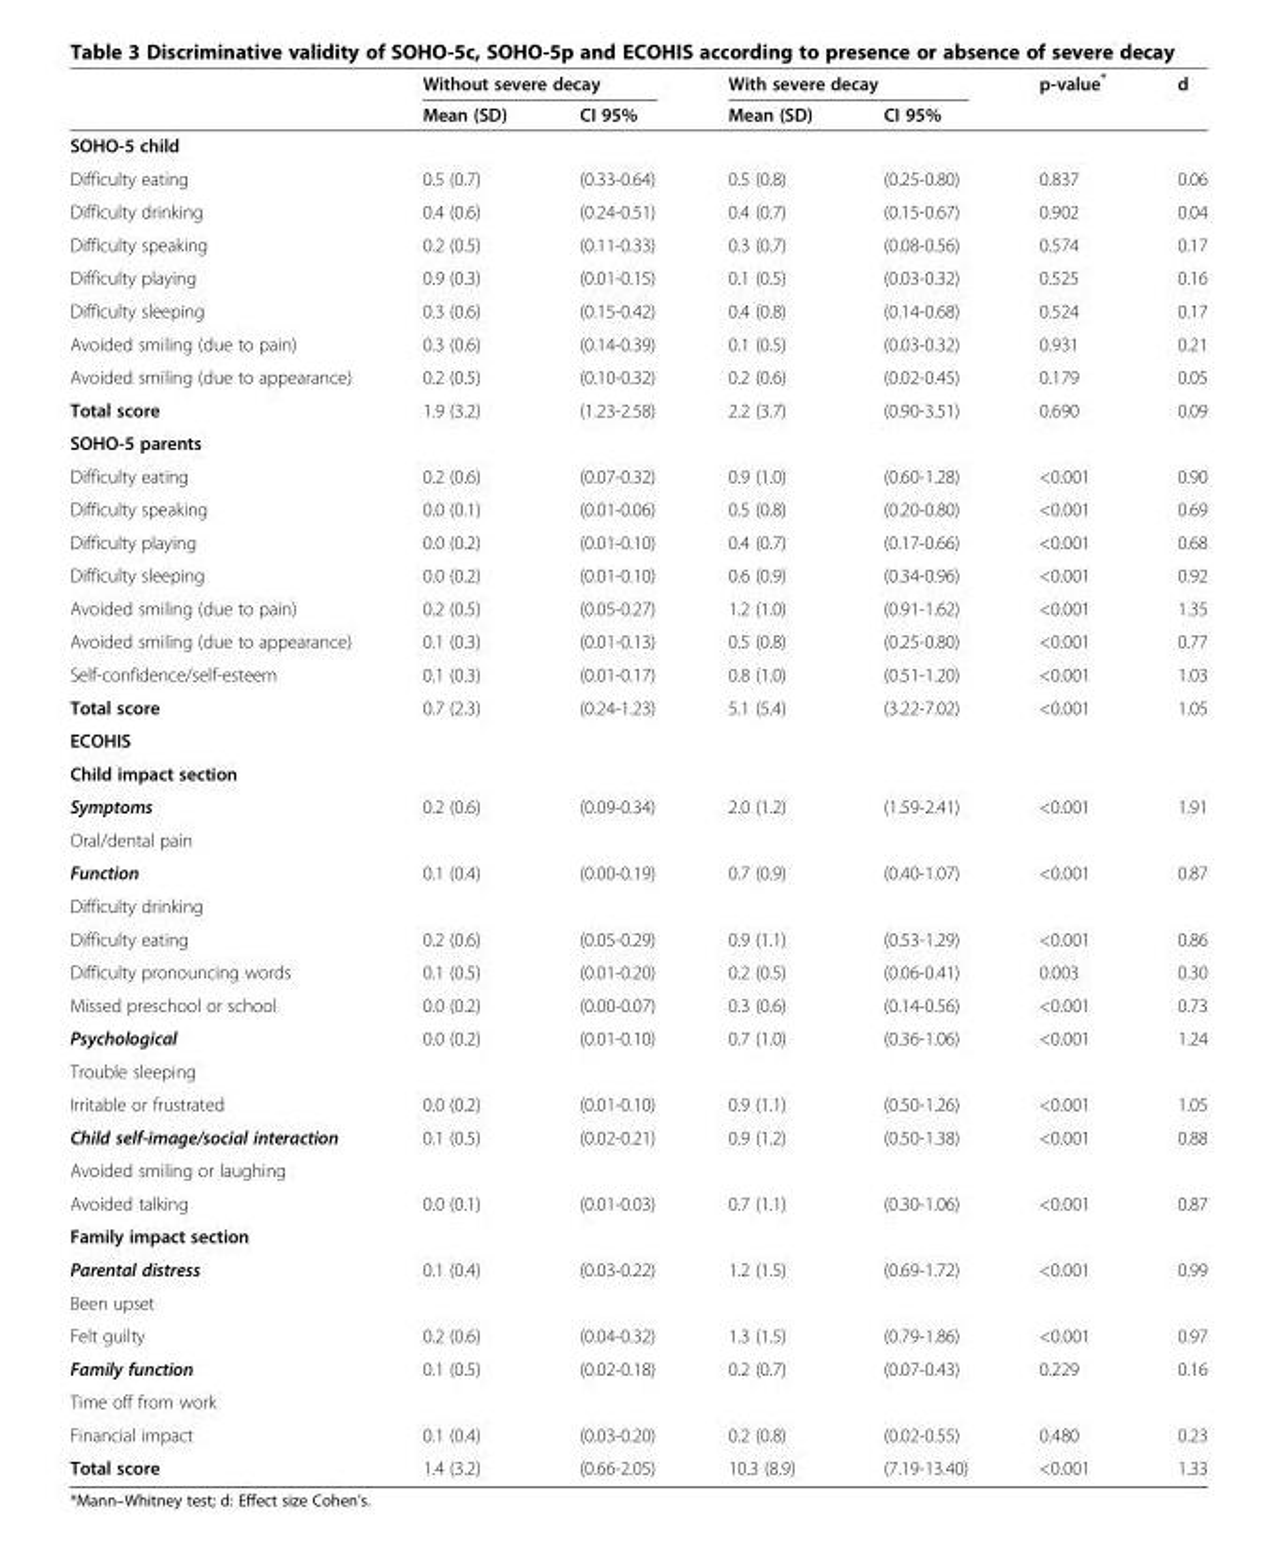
<table><thead><tr><td rowspan="2"></td><td colspan="2">Without severe decay</td><td colspan="2">With severe decay</td><td rowspan="2">p-value*</td><td rowspan="2">d</td></tr><tr><td>Mean (SD)</td><td>CI 95%</td><td>Mean (SD)</td><td>CI 95%</td></tr></thead><tbody><tr><td colspan="7">SOHO-5 child</td></tr><tr><td>Difficulty eating</td><td>0.5 (0.7)</td><td>(0.33-0.64)</td><td>0.5 (0.8)</td><td>(0.25-0.80)</td><td>0.837</td><td>0.06</td></tr><tr><td>Difficulty drinking</td><td>0.4 (0.6)</td><td>(0.24-0.51)</td><td>0.4 (0.7)</td><td>(0.15-0.67)</td><td>0.902</td><td>0.04</td></tr><tr><td>Difficulty speaking</td><td>0.2 (0.5)</td><td>(0.11-0.33)</td><td>0.3 (0.7)</td><td>(0.08-0.56)</td><td>0.574</td><td>0.17</td></tr><tr><td>Difficulty playing</td><td>0.9 (0.3)</td><td>(0.01-0.15)</td><td>0.1 (0.5)</td><td>(0.03-0.32)</td><td>0.525</td><td>0.16</td></tr><tr><td>Difficulty sleeping</td><td>0.3 (0.6)</td><td>(0.15-0.42)</td><td>0.4 (0.8)</td><td>(0.14-0.68)</td><td>0.524</td><td>0.17</td></tr><tr><td>Avoided smiling (due to pain)</td><td>0.3 (0.6)</td><td>(0.14-0.39)</td><td>0.1 (0.5)</td><td>(0.03-0.32)</td><td>0.931</td><td>0.21</td></tr><tr><td>Avoided smiling (due to appearance)</td><td>0.2 (0.5)</td><td>(0.10-0.32)</td><td>0.2 (0.6)</td><td>(0.02-0.45)</td><td>0.179</td><td>0.05</td></tr><tr><td>Total score</td><td>1.9 (3.2)</td><td>(1.23-2.58)</td><td>2.2 (3.7)</td><td>(0.90-3.51)</td><td>0.690</td><td>0.09</td></tr><tr><td colspan="7">SOHO-5 parents</td></tr><tr><td>Difficulty eating</td><td>0.2 (0.6)</td><td>(0.07-0.32)</td><td>0.9 (1.0)</td><td>(0.60-1.28)</td><td>&lt;0.001</td><td>0.90</td></tr><tr><td>Difficulty speaking</td><td>0.0 (0.1)</td><td>(0.01-0.06)</td><td>0.5 (0.8)</td><td>(0.20-0.80)</td><td>&lt;0.001</td><td>0.69</td></tr><tr><td>Difficulty playing</td><td>0.0 (0.2)</td><td>(0.01-0.10)</td><td>0.4 (0.7)</td><td>(0.17-0.66)</td><td>&lt;0.001</td><td>0.68</td></tr><tr><td>Difficulty sleeping</td><td>0.0 (0.2)</td><td>(0.01-0.10)</td><td>0.6 (0.9)</td><td>(0.34-0.96)</td><td>&lt;0.001</td><td>0.92</td></tr><tr><td>Avoided smiling (due to pain)</td><td>0.2 (0.5)</td><td>(0.05-0.27)</td><td>1.2 (1.0)</td><td>(0.91-1.62)</td><td>&lt;0.001</td><td>1.35</td></tr><tr><td>Avoided smiling (due to appearance)</td><td>0.1 (0.3)</td><td>(0.01-0.13)</td><td>0.5 (0.8)</td><td>(0.25-0.80)</td><td>&lt;0.001</td><td>0.77</td></tr><tr><td>Self-confidence/self-esteem</td><td>0.1 (0.3)</td><td>(0.01-0.17)</td><td>0.8 (1.0)</td><td>(0.51-1.20)</td><td>&lt;0.001</td><td>1.03</td></tr><tr><td>Total score</td><td>0.7 (2.3)</td><td>(0.24-1.23)</td><td>5.1 (5.4)</td><td>(3.22-7.02)</td><td>&lt;0.001</td><td>1.05</td></tr><tr><td colspan="7">ECOHIS</td></tr><tr><td colspan="7">Child impact section</td></tr><tr><td>Symptoms</td><td rowspan="2">0.2 (0.6)</td><td rowspan="2">(0.09-0.34)</td><td rowspan="2">2.0 (1.2)</td><td rowspan="2">(1.59-2.41)</td><td rowspan="2">&lt;0.001</td><td rowspan="2">1.91</td></tr><tr><td>Oral/dental pain</td></tr><tr><td>Function</td><td rowspan="2">0.1 (0.4)</td><td rowspan="2">(0.00-0.19)</td><td rowspan="2">0.7 (0.9)</td><td rowspan="2">(0.40-1.07)</td><td rowspan="2">&lt;0.001</td><td rowspan="2">0.87</td></tr><tr><td>Difficulty drinking</td></tr><tr><td>Difficulty eating</td><td>0.2 (0.6)</td><td>(0.05-0.29)</td><td>0.9 (1.1)</td><td>(0.53-1.29)</td><td>&lt;0.001</td><td>0.86</td></tr><tr><td>Difficulty pronouncing words</td><td>0.1 (0.5)</td><td>(0.01-0.20)</td><td>0.2 (0.5)</td><td>(0.06-0.41)</td><td>0.003</td><td>0.30</td></tr><tr><td>Missed preschool or school</td><td>0.0 (0.2)</td><td>(0.00-0.07)</td><td>0.3 (0.6)</td><td>(0.14-0.56)</td><td>&lt;0.001</td><td>0.73</td></tr><tr><td>Psychological</td><td rowspan="2">0.0 (0.2)</td><td rowspan="2">(0.01-0.10)</td><td rowspan="2">0.7 (1.0)</td><td rowspan="2">(0.36-1.06)</td><td rowspan="2">&lt;0.001</td><td rowspan="2">1.24</td></tr><tr><td>Trouble sleeping</td></tr><tr><td>Irritable or frustrated</td><td>0.0 (0.2)</td><td>(0.01-0.10)</td><td>0.9 (1.1)</td><td>(0.50-1.26)</td><td>&lt;0.001</td><td>1.05</td></tr><tr><td>Child self-image/social interaction</td><td rowspan="2">0.1 (0.5)</td><td rowspan="2">(0.02-0.21)</td><td rowspan="2">0.9 (1.2)</td><td rowspan="2">(0.50-1.38)</td><td rowspan="2">&lt;0.001</td><td rowspan="2">0.88</td></tr><tr><td>Avoided smiling or laughing</td></tr><tr><td>Avoided talking</td><td>0.0 (0.1)</td><td>(0.01-0.03)</td><td>0.7 (1.1)</td><td>(0.30-1.06)</td><td>&lt;0.001</td><td>0.87</td></tr><tr><td colspan="7">Family impact section</td></tr><tr><td>Parental distress</td><td rowspan="2">0.1 (0.4)</td><td rowspan="2">(0.03-0.22)</td><td rowspan="2">1.2 (1.5)</td><td rowspan="2">(0.69-1.72)</td><td rowspan="2">&lt;0.001</td><td rowspan="2">0.99</td></tr><tr><td>Been upset</td></tr><tr><td>Felt guilty</td><td>0.2 (0.6)</td><td>(0.04-0.32)</td><td>1.3 (1.5)</td><td>(0.79-1.86)</td><td>&lt;0.001</td><td>0.97</td></tr><tr><td>Family function</td><td rowspan="2">0.1 (0.5)</td><td rowspan="2">(0.02-0.18)</td><td rowspan="2">0.2 (0.7)</td><td rowspan="2">(0.07-0.43)</td><td rowspan="2">0.229</td><td rowspan="2">0.16</td></tr><tr><td>Time off from work</td></tr><tr><td>Financial impact</td><td>0.1 (0.4)</td><td>(0.03-0.20)</td><td>0.2 (0.8)</td><td>(0.02-0.55)</td><td>0.480</td><td>0.23</td></tr><tr><td>Total score</td><td>1.4 (3.2)</td><td>(0.66-2.05)</td><td>10.3 (8.9)</td><td>(7.19-13.40)</td><td>&lt;0.001</td><td>1.33</td></tr></tbody></table>